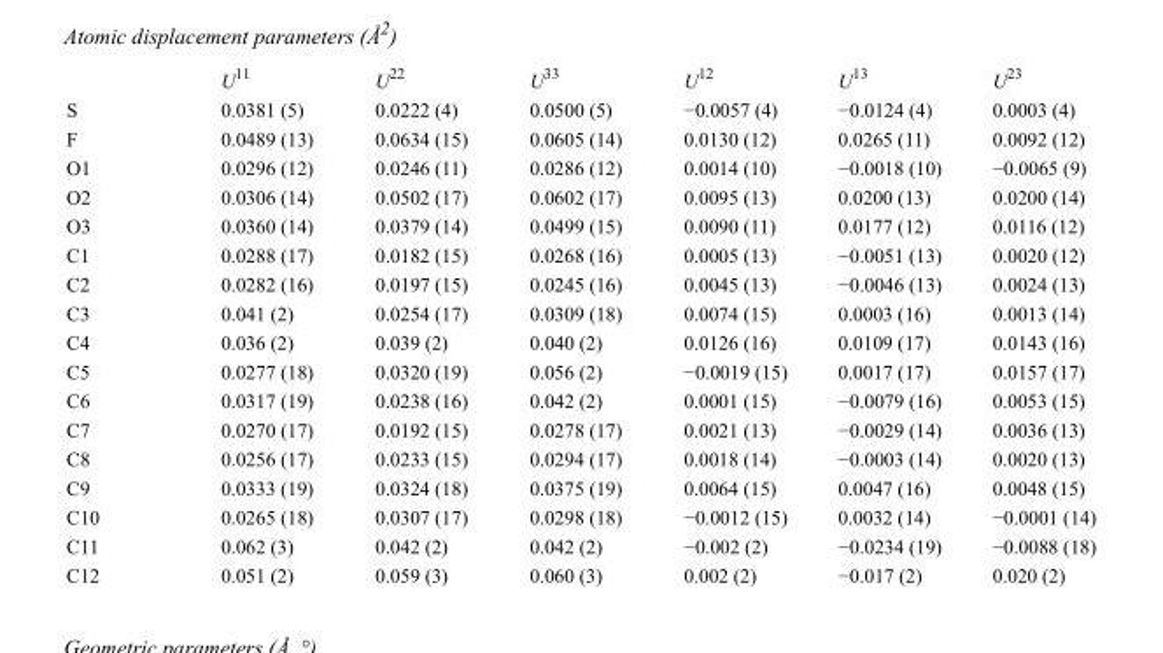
<table><thead><tr><td></td><td>U<sup>11</sup></td><td>U<sup>22</sup></td><td>U<sup>33</sup></td><td>U<sup>12</sup></td><td>U<sup>13</sup></td><td>U<sup>23</sup></td></tr></thead><tbody><tr><td>S</td><td>0.0381 (5)</td><td>0.0222 (4)</td><td>0.0500 (5)</td><td>−0.0057 (4)</td><td>−0.0124 (4)</td><td>0.0003 (4)</td></tr><tr><td>F</td><td>0.0489 (13)</td><td>0.0634 (15)</td><td>0.0605 (14)</td><td>0.0130 (12)</td><td>0.0265 (11)</td><td>0.0092 (12)</td></tr><tr><td>O1</td><td>0.0296 (12)</td><td>0.0246 (11)</td><td>0.0286 (12)</td><td>0.0014 (10)</td><td>−0.0018 (10)</td><td>−0.0065 (9)</td></tr><tr><td>O2</td><td>0.0306 (14)</td><td>0.0502 (17)</td><td>0.0602 (17)</td><td>0.0095 (13)</td><td>0.0200 (13)</td><td>0.0200 (14)</td></tr><tr><td>O3</td><td>0.0360 (14)</td><td>0.0379 (14)</td><td>0.0499 (15)</td><td>0.0090 (11)</td><td>0.0177 (12)</td><td>0.0116 (12)</td></tr><tr><td>C1</td><td>0.0288 (17)</td><td>0.0182 (15)</td><td>0.0268 (16)</td><td>0.0005 (13)</td><td>−0.0051 (13)</td><td>0.0020 (12)</td></tr><tr><td>C2</td><td>0.0282 (16)</td><td>0.0197 (15)</td><td>0.0245 (16)</td><td>0.0045 (13)</td><td>−0.0046 (13)</td><td>0.0024 (13)</td></tr><tr><td>C3</td><td>0.041 (2)</td><td>0.0254 (17)</td><td>0.0309 (18)</td><td>0.0074 (15)</td><td>0.0003 (16)</td><td>0.0013 (14)</td></tr><tr><td>C4</td><td>0.036 (2)</td><td>0.039 (2)</td><td>0.040 (2)</td><td>0.0126 (16)</td><td>0.0109 (17)</td><td>0.0143 (16)</td></tr><tr><td>C5</td><td>0.0277 (18)</td><td>0.0320 (19)</td><td>0.056 (2)</td><td>−0.0019 (15)</td><td>0.0017 (17)</td><td>0.0157 (17)</td></tr><tr><td>C6</td><td>0.0317 (19)</td><td>0.0238 (16)</td><td>0.042 (2)</td><td>0.0001 (15)</td><td>−0.0079 (16)</td><td>0.0053 (15)</td></tr><tr><td>C7</td><td>0.0270 (17)</td><td>0.0192 (15)</td><td>0.0278 (17)</td><td>0.0021 (13)</td><td>−0.0029 (14)</td><td>0.0036 (13)</td></tr><tr><td>C8</td><td>0.0256 (17)</td><td>0.0233 (15)</td><td>0.0294 (17)</td><td>0.0018 (14)</td><td>−0.0003 (14)</td><td>0.0020 (13)</td></tr><tr><td>C9</td><td>0.0333 (19)</td><td>0.0324 (18)</td><td>0.0375 (19)</td><td>0.0064 (15)</td><td>0.0047 (16)</td><td>0.0048 (15)</td></tr><tr><td>C10</td><td>0.0265 (18)</td><td>0.0307 (17)</td><td>0.0298 (18)</td><td>−0.0012 (15)</td><td>0.0032 (14)</td><td>−0.0001 (14)</td></tr><tr><td>C11</td><td>0.062 (3)</td><td>0.042 (2)</td><td>0.042 (2)</td><td>−0.002 (2)</td><td>−0.0234 (19)</td><td>−0.0088 (18)</td></tr><tr><td>C12</td><td>0.051 (2)</td><td>0.059 (3)</td><td>0.060 (3)</td><td>0.002 (2)</td><td>−0.017 (2)</td><td>0.020 (2)</td></tr></tbody></table>